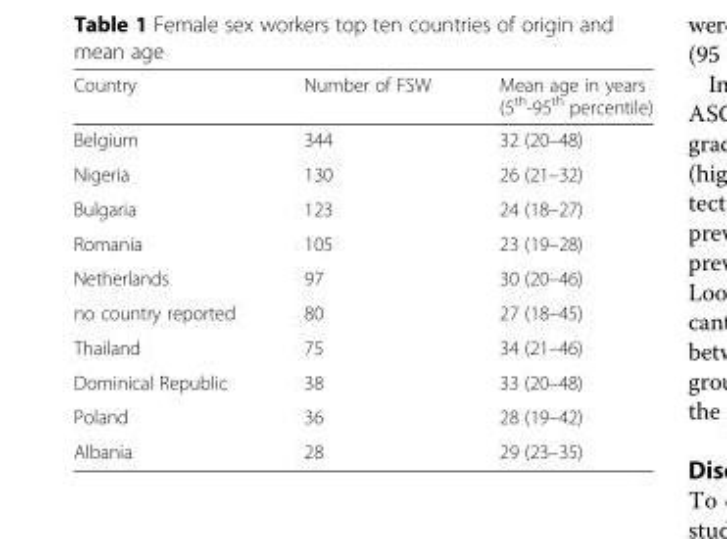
<table><thead><tr><td>Country</td><td>Number of FSW</td><td>Mean age in years (5<sup>th</sup>-95<sup>th</sup> percentile)</td></tr></thead><tbody><tr><td>Belgium</td><td>344</td><td>32 (20–48)</td></tr><tr><td>Nigeria</td><td>130</td><td>26 (21–32)</td></tr><tr><td>Bulgaria</td><td>123</td><td>24 (18–27)</td></tr><tr><td>Romania</td><td>105</td><td>23 (19–28)</td></tr><tr><td>Netherlands</td><td>97</td><td>30 (20–46)</td></tr><tr><td>no country reported</td><td>80</td><td>27 (18–45)</td></tr><tr><td>Thailand</td><td>75</td><td>34 (21–46)</td></tr><tr><td>Dominical Republic</td><td>38</td><td>33 (20–48)</td></tr><tr><td>Poland</td><td>36</td><td>28 (19–42)</td></tr><tr><td>Albania</td><td>28</td><td>29 (23–35)</td></tr></tbody></table>